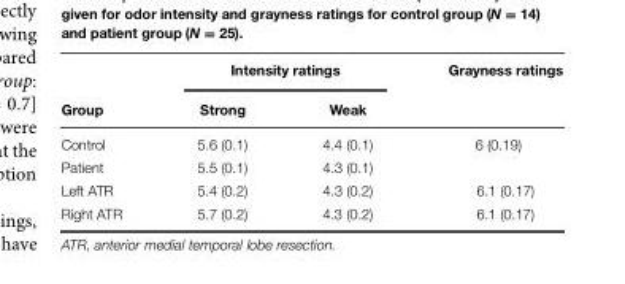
<table><thead><tr><td rowspan="2">Group</td><td colspan="2">Intensity ratings</td><td rowspan="2">Grayness ratings</td></tr><tr><td>Strong</td><td>Weak</td></tr></thead><tbody><tr><td>Control</td><td>5.6 (0.1)</td><td>4.4 (0.1)</td><td>6 (0.19)</td></tr><tr><td>Patient</td><td>5.5 (0.1)</td><td>4.3 (0.1)</td><td></td></tr><tr><td>Left ATR</td><td>5.4 (0.2)</td><td>4.3 (0.2)</td><td>6.1 (0.17)</td></tr><tr><td>Right ATR</td><td>5.7 (0.2)</td><td>4.3 (0.2)</td><td>6.1 (0.17)</td></tr></tbody></table>